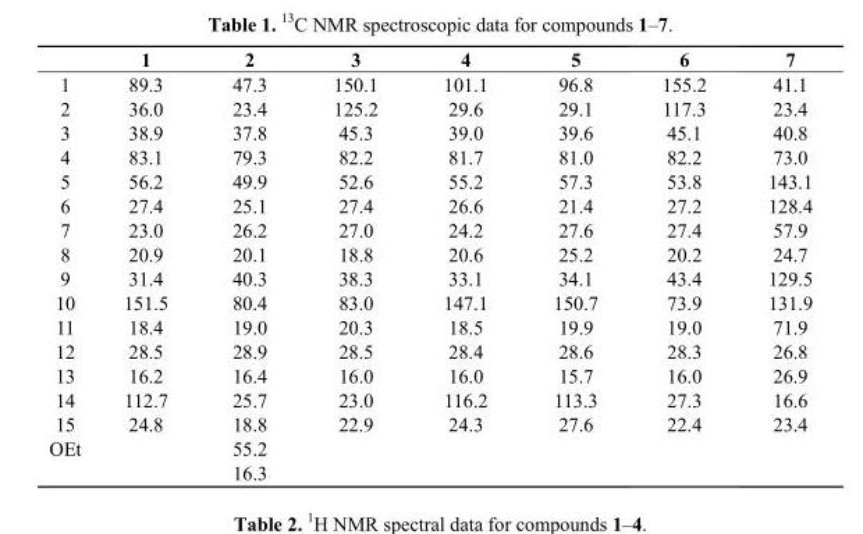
<table><thead><tr><td></td><td>1</td><td>2</td><td>3</td><td>4</td><td>5</td><td>6</td><td>7</td></tr></thead><tbody><tr><td>1</td><td>89.3</td><td>47.3</td><td>150.1</td><td>101.1</td><td>96.8</td><td>155.2</td><td>41.1</td></tr><tr><td>2</td><td>36.0</td><td>23.4</td><td>125.2</td><td>29.6</td><td>29.1</td><td>117.3</td><td>23.4</td></tr><tr><td>3</td><td>38.9</td><td>37.8</td><td>45.3</td><td>39.0</td><td>39.6</td><td>45.1</td><td>40.8</td></tr><tr><td>4</td><td>83.1</td><td>79.3</td><td>82.2</td><td>81.7</td><td>81.0</td><td>82.2</td><td>73.0</td></tr><tr><td>5</td><td>56.2</td><td>49.9</td><td>52.6</td><td>55.2</td><td>57.3</td><td>53.8</td><td>143.1</td></tr><tr><td>6</td><td>27.4</td><td>25.1</td><td>27.4</td><td>26.6</td><td>21.4</td><td>27.2</td><td>128.4</td></tr><tr><td>7</td><td>23.0</td><td>26.2</td><td>27.0</td><td>24.2</td><td>27.6</td><td>27.4</td><td>57.9</td></tr><tr><td>8</td><td>20.9</td><td>20.1</td><td>18.8</td><td>20.6</td><td>25.2</td><td>20.2</td><td>24.7</td></tr><tr><td>9</td><td>31.4</td><td>40.3</td><td>38.3</td><td>33.1</td><td>34.1</td><td>43.4</td><td>129.5</td></tr><tr><td>10</td><td>151.5</td><td>80.4</td><td>83.0</td><td>147.1</td><td>150.7</td><td>73.9</td><td>131.9</td></tr><tr><td>11</td><td>18.4</td><td>19.0</td><td>20.3</td><td>18.5</td><td>19.9</td><td>19.0</td><td>71.9</td></tr><tr><td>12</td><td>28.5</td><td>28.9</td><td>28.5</td><td>28.4</td><td>28.6</td><td>28.3</td><td>26.8</td></tr><tr><td>13</td><td>16.2</td><td>16.4</td><td>16.0</td><td>16.0</td><td>15.7</td><td>16.0</td><td>26.9</td></tr><tr><td>14</td><td>112.7</td><td>25.7</td><td>23.0</td><td>116.2</td><td>113.3</td><td>27.3</td><td>16.6</td></tr><tr><td>15</td><td>24.8</td><td>18.8</td><td>22.9</td><td>24.3</td><td>27.6</td><td>22.4</td><td>23.4</td></tr><tr><td rowspan="2">OEt</td><td></td><td>55.2</td><td></td><td></td><td></td><td></td><td></td></tr><tr><td></td><td>16.3</td><td></td><td></td><td></td><td></td><td></td></tr></tbody></table>